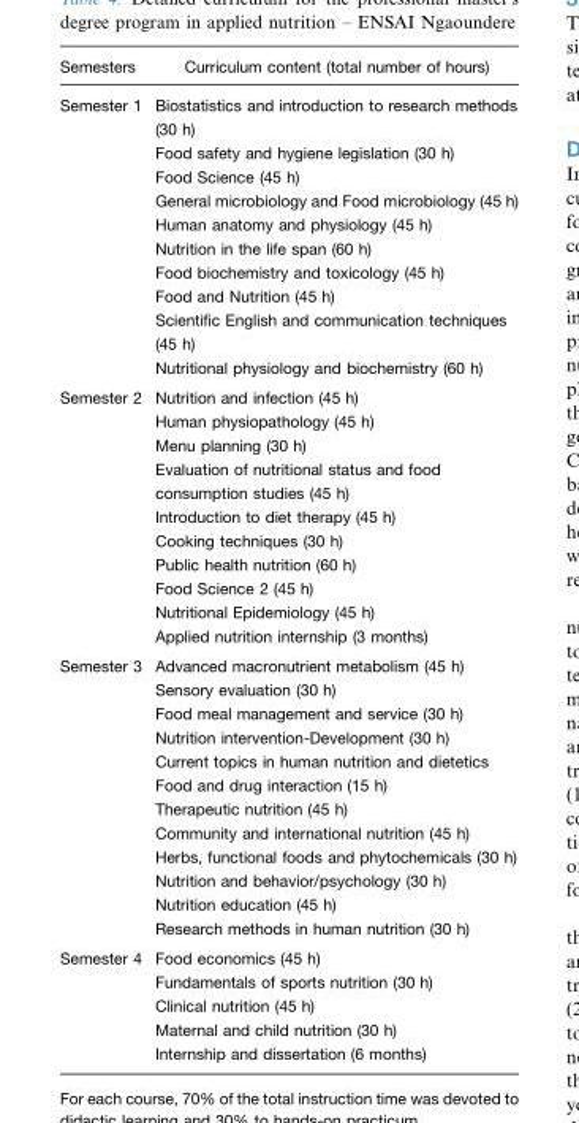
<table><thead><tr><td>Semesters</td><td>Curriculum content (total number of hours)</td></tr></thead><tbody><tr><td rowspan="10">Semester 1</td><td>Biostatistics and introduction to research methods (30 h)</td></tr><tr><td>Food safety and hygiene legislation (30 h)</td></tr><tr><td>Food Science (45 h)</td></tr><tr><td>General microbiology and Food microbiology (45 h)</td></tr><tr><td>Human anatomy and physiology (45 h)</td></tr><tr><td>Nutrition in the life span (60 h)</td></tr><tr><td>Food biochemistry and toxicology (45 h)</td></tr><tr><td>Food and Nutrition (45 h)</td></tr><tr><td>Scientific English and communication techniques (45 h)</td></tr><tr><td>Nutritional physiology and biochemistry (60 h)</td></tr><tr><td rowspan="10">Semester 2</td><td>Nutrition and infection (45 h)</td></tr><tr><td>Human physiopathology (45 h)</td></tr><tr><td>Menu planning (30 h)</td></tr><tr><td>Evaluation of nutritional status and food consumption studies (45 h)</td></tr><tr><td>Introduction to diet therapy (45 h)</td></tr><tr><td>Cooking techniques (30 h)</td></tr><tr><td>Public health nutrition (60 h)</td></tr><tr><td>Food Science 2 (45 h)</td></tr><tr><td>Nutritional Epidemiology (45 h)</td></tr><tr><td>Applied nutrition internship (3 months)</td></tr><tr><td rowspan="12">Semester 3</td><td>Advanced macronutrient metabolism (45 h)</td></tr><tr><td>Sensory evaluation (30 h)</td></tr><tr><td>Food meal management and service (30 h)</td></tr><tr><td>Nutrition intervention-Development (30 h)</td></tr><tr><td>Current topics in human nutrition and dietetics</td></tr><tr><td>Food and drug interaction (15 h)</td></tr><tr><td>Therapeutic nutrition (45 h)</td></tr><tr><td>Community and international nutrition (45 h)</td></tr><tr><td>Herbs, functional foods and phytochemicals (30 h)</td></tr><tr><td>Nutrition and behavior/psychology (30 h)</td></tr><tr><td>Nutrition education (45 h)</td></tr><tr><td>Research methods in human nutrition (30 h)</td></tr><tr><td rowspan="5">Semester 4</td><td>Food economics (45 h)</td></tr><tr><td>Fundamentals of sports nutrition (30 h)</td></tr><tr><td>Clinical nutrition (45 h)</td></tr><tr><td>Maternal and child nutrition (30 h)</td></tr><tr><td>Internship and dissertation (6 months)</td></tr></tbody></table>